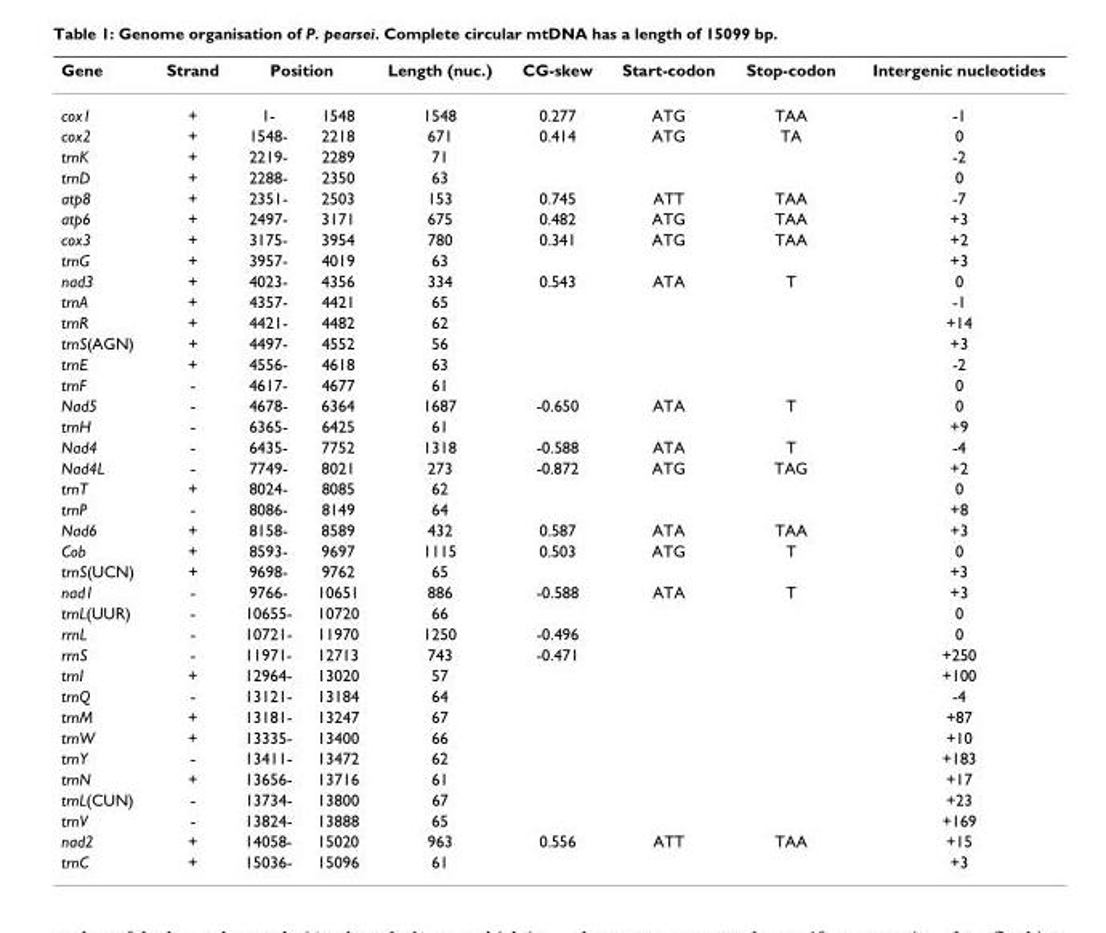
<table><thead><tr><td rowspan="2">Gene cox1</td><td rowspan="2">Strand +</td><td colspan="2">Position</td><td rowspan="2">Length (nuc.) 1548</td><td rowspan="2">CG-skew 0.277</td><td rowspan="2">Start-codon ATG</td><td rowspan="2">Stop-codon TAA</td><td rowspan="2">Intergenic nucleotides -1</td></tr><tr><td>1-</td><td>1548</td></tr></thead><tbody><tr><td>cox2</td><td>+</td><td>1548-</td><td>2218</td><td>671</td><td>0.414</td><td>ATG</td><td>TA</td><td>0</td></tr><tr><td>trnK</td><td>+</td><td>2219-</td><td>2289</td><td>71</td><td></td><td></td><td></td><td>-2</td></tr><tr><td>trnD</td><td>+</td><td>2288-</td><td>2350</td><td>63</td><td></td><td></td><td></td><td>0</td></tr><tr><td>atp8</td><td>+</td><td>2351-</td><td>2503</td><td>153</td><td>0.745</td><td>ATT</td><td>TAA</td><td>-7</td></tr><tr><td>atp6</td><td>+</td><td>2497-</td><td>3171</td><td>675</td><td>0.482</td><td>ATG</td><td>TAA</td><td>+3</td></tr><tr><td>cox3</td><td>+</td><td>3175-</td><td>3954</td><td>780</td><td>0.341</td><td>ATG</td><td>TAA</td><td>+2</td></tr><tr><td>trnG</td><td>+</td><td>3957-</td><td>4019</td><td>63</td><td></td><td></td><td></td><td>+3</td></tr><tr><td>nad3</td><td>+</td><td>4023-</td><td>4356</td><td>334</td><td>0.543</td><td>ATA</td><td>T</td><td>0</td></tr><tr><td>trnA</td><td>+</td><td>4357-</td><td>4421</td><td>65</td><td></td><td></td><td></td><td>-1</td></tr><tr><td>trnR</td><td>+</td><td>4421-</td><td>4482</td><td>62</td><td></td><td></td><td></td><td>+14</td></tr><tr><td>trnS(AGN)</td><td>+</td><td>4497-</td><td>4552</td><td>56</td><td></td><td></td><td></td><td>+3</td></tr><tr><td>trnE</td><td>+</td><td>4556-</td><td>4618</td><td>63</td><td></td><td></td><td></td><td>-2</td></tr><tr><td>trnF</td><td>-</td><td>4617-</td><td>4677</td><td>61</td><td></td><td></td><td></td><td>0</td></tr><tr><td>Nad5</td><td>-</td><td>4678-</td><td>6364</td><td>1687</td><td>-0.650</td><td>ATA</td><td>T</td><td>0</td></tr><tr><td>trnH</td><td>-</td><td>6365-</td><td>6425</td><td>61</td><td></td><td></td><td></td><td>+9</td></tr><tr><td>Nad4</td><td>-</td><td>6435-</td><td>7752</td><td>1318</td><td>-0.588</td><td>ATA</td><td>T</td><td>-4</td></tr><tr><td>Nad4L</td><td>-</td><td>7749-</td><td>8021</td><td>273</td><td>-0.872</td><td>ATG</td><td>TAG</td><td>+2</td></tr><tr><td>trnT</td><td>+</td><td>8024-</td><td>8085</td><td>62</td><td></td><td></td><td></td><td>0</td></tr><tr><td>trnP</td><td>-</td><td>8086-</td><td>8149</td><td>64</td><td></td><td></td><td></td><td>+8</td></tr><tr><td>Nad6</td><td>+</td><td>8158-</td><td>8589</td><td>432</td><td>0.587</td><td>ATA</td><td>TAA</td><td>+3</td></tr><tr><td>Cob</td><td>+</td><td>8593-</td><td>9697</td><td>1115</td><td>0.503</td><td>ATG</td><td>T</td><td>0</td></tr><tr><td>trnS(UCN)</td><td>+</td><td>9698-</td><td>9762</td><td>65</td><td></td><td></td><td></td><td>+3</td></tr><tr><td>nad1</td><td>-</td><td>9766-</td><td>10651</td><td>886</td><td>-0.588</td><td>ATA</td><td>T</td><td>+3</td></tr><tr><td>trnL(UUR)</td><td>-</td><td>10655-</td><td>10720</td><td>66</td><td></td><td></td><td></td><td>0</td></tr><tr><td>rrnL</td><td>-</td><td>10721-</td><td>11970</td><td>1250</td><td>-0.496</td><td></td><td></td><td>0</td></tr><tr><td>rrnS</td><td>-</td><td>11971-</td><td>12713</td><td>743</td><td>-0.471</td><td></td><td></td><td>+250</td></tr><tr><td>trnI</td><td>+</td><td>12964-</td><td>13020</td><td>57</td><td></td><td></td><td></td><td>+100</td></tr><tr><td>trnQ</td><td>-</td><td>13121-</td><td>13184</td><td>64</td><td></td><td></td><td></td><td>-4</td></tr><tr><td>trnM</td><td>+</td><td>13181-</td><td>13247</td><td>67</td><td></td><td></td><td></td><td>+87</td></tr><tr><td>trnW</td><td>+</td><td>13335-</td><td>13400</td><td>66</td><td></td><td></td><td></td><td>+10</td></tr><tr><td>trnY</td><td>-</td><td>13411-</td><td>13472</td><td>62</td><td></td><td></td><td></td><td>+183</td></tr><tr><td>trnN</td><td>+</td><td>13656-</td><td>13716</td><td>61</td><td></td><td></td><td></td><td>+17</td></tr><tr><td>trnL(CUN)</td><td>-</td><td>13734-</td><td>13800</td><td>67</td><td></td><td></td><td></td><td>+23</td></tr><tr><td>trnV</td><td>-</td><td>13824-</td><td>13888</td><td>65</td><td></td><td></td><td></td><td>+169</td></tr><tr><td>nad2</td><td>+</td><td>14058-</td><td>15020</td><td>963</td><td>0.556</td><td>ATT</td><td>TAA</td><td>+15</td></tr><tr><td>trnC</td><td>+</td><td>15036-</td><td>15096</td><td>61</td><td></td><td></td><td></td><td>+3</td></tr></tbody></table>